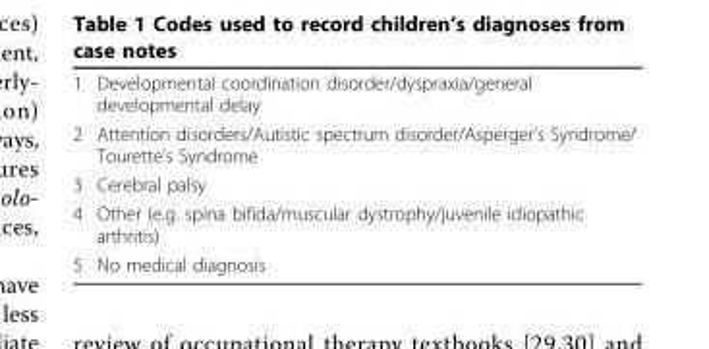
<table><tbody><tr><td>1</td><td>Developmental coordination disorder/dyspraxia/general developmental delay</td></tr><tr><td>2</td><td>Attention disorders/Autistic spectrum disorder/Asperger’s Syndrome/ Tourette’s Syndrome</td></tr><tr><td>3</td><td>Cerebral palsy</td></tr><tr><td>4</td><td>Other (e.g. spina bifida/muscular dystrophy/juvenile idiopathic arthritis)</td></tr><tr><td>5</td><td>No medical diagnosis</td></tr></tbody></table>